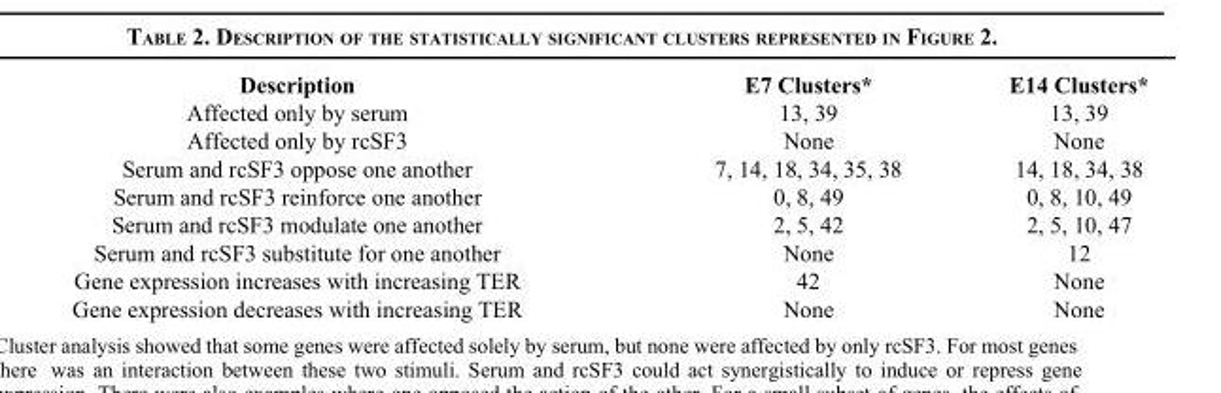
<table><thead><tr><td>Description</td><td>E7 Clusters*</td><td>E14 Clusters*</td></tr></thead><tbody><tr><td>Affected only by serum</td><td>13, 39</td><td>13, 39</td></tr><tr><td>Affected only by rcSF3</td><td>None</td><td>None</td></tr><tr><td>Serum and rcSF3 oppose one another</td><td>7, 14, 18, 34, 35, 38</td><td>14, 18, 34, 38</td></tr><tr><td>Serum and rcSF3 reinforce one another</td><td>0, 8, 49</td><td>0, 8, 10, 49</td></tr><tr><td>Serum and rcSF3 modulate one another</td><td>2, 5, 42</td><td>2, 5, 10, 47</td></tr><tr><td>Serum and rcSF3 substitute for one another</td><td>None</td><td>12</td></tr><tr><td>Gene expression increases with increasing TER</td><td>42</td><td>None</td></tr><tr><td>Gene expression decreases with increasing TER</td><td>None</td><td>None</td></tr></tbody></table>